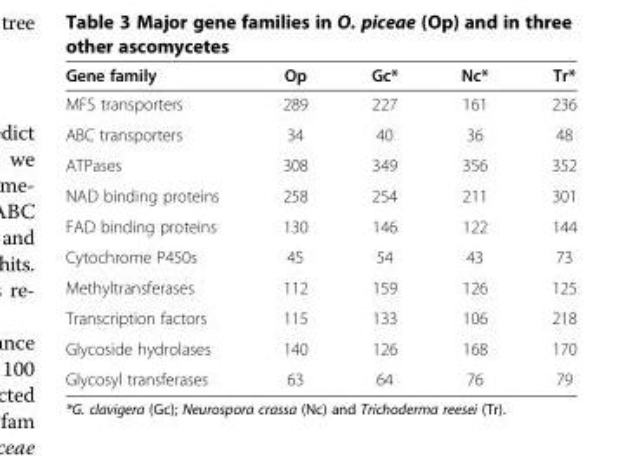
<table><thead><tr><td>Gene family</td><td>Op</td><td>Gc*</td><td>Nc*</td><td>Tr*</td></tr></thead><tbody><tr><td>MFS transporters</td><td>289</td><td>227</td><td>161</td><td>236</td></tr><tr><td>ABC transporters</td><td>34</td><td>40</td><td>36</td><td>48</td></tr><tr><td>ATPases</td><td>308</td><td>349</td><td>356</td><td>352</td></tr><tr><td>NAD binding proteins</td><td>258</td><td>254</td><td>211</td><td>301</td></tr><tr><td>FAD binding proteins</td><td>130</td><td>146</td><td>122</td><td>144</td></tr><tr><td>Cytochrome P450s</td><td>45</td><td>54</td><td>43</td><td>73</td></tr><tr><td>Methyltransferases</td><td>112</td><td>159</td><td>126</td><td>125</td></tr><tr><td>Transcription factors</td><td>115</td><td>133</td><td>106</td><td>218</td></tr><tr><td>Glycoside hydrolases</td><td>140</td><td>126</td><td>168</td><td>170</td></tr><tr><td>Glycosyl transferases</td><td>63</td><td>64</td><td>76</td><td>79</td></tr></tbody></table>